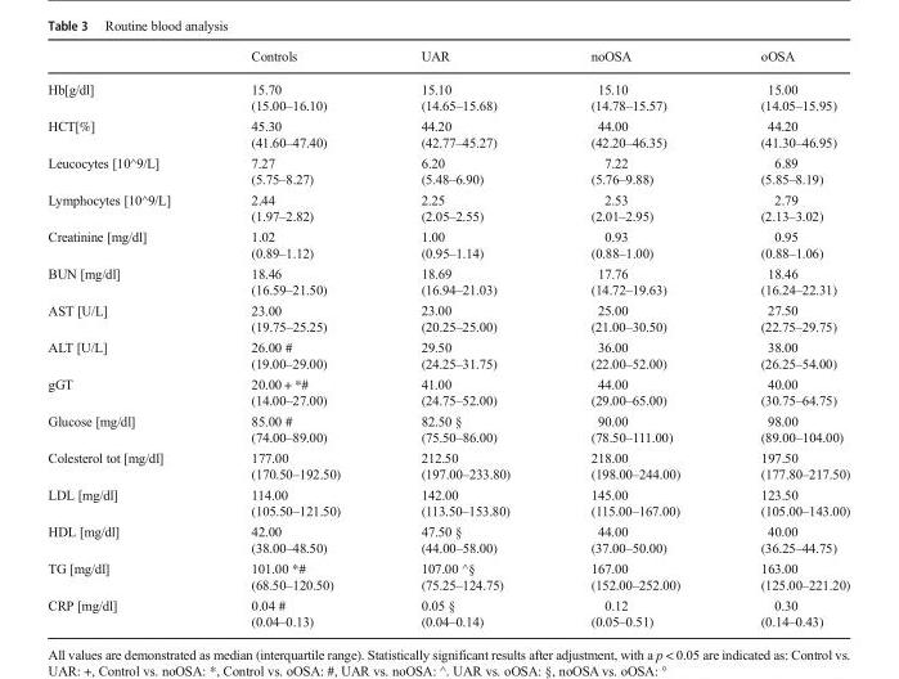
<table><thead><tr><td></td><td>Controls</td><td>UAR</td><td>noOSA</td><td>oOSA</td></tr></thead><tbody><tr><td>Hb[g/dl]</td><td>15.70 (15.00–16.10)</td><td>15.10 (14.65–15.68)</td><td>15.10 (14.78–15.57)</td><td>15.00 (14.05–15.95)</td></tr><tr><td>HCT[%]</td><td>45.30 (41.60–47.40)</td><td>44.20 (42.77–45.27)</td><td>44.00 (42.20–46.35)</td><td>44.20 (41.30–46.95)</td></tr><tr><td>Leucocytes [10^9/L]</td><td>7.27 (5.75–8.27)</td><td>6.20 (5.48–6.90)</td><td>7.22 (5.76–9.88)</td><td>6.89 (5.85–8.19)</td></tr><tr><td>Lymphocytes [10^9/L]</td><td>2.44 (1.97–2.82)</td><td>2.25 (2.05–2.55)</td><td>2.53 (2.01–2.95)</td><td>2.79 (2.13–3.02)</td></tr><tr><td>Creatinine [mg/dl]</td><td>1.02 (0.89–1.12)</td><td>1.00 (0.95–1.14)</td><td>0.93 (0.88–1.00)</td><td>0.95 (0.88–1.06)</td></tr><tr><td>BUN [mg/dl]</td><td>18.46 (16.59–21.50)</td><td>18.69 (16.94–21.03)</td><td>17.76 (14.72–19.63)</td><td>18.46 (16.24–22.31)</td></tr><tr><td>AST [U/L]</td><td>23.00 (19.75–25.25)</td><td>23.00 (20.25–25.00)</td><td>25.00 (21.00–30.50)</td><td>27.50 (22.75–29.75)</td></tr><tr><td>ALT [U/L]</td><td>26.00 # (19.00–29.00)</td><td>29.50 (24.25–31.75)</td><td>36.00 (22.00–52.00)</td><td>38.00 (26.25–54.00)</td></tr><tr><td>gGT</td><td>20.00 + *# (14.00–27.00)</td><td>41.00 (24.75–52.00)</td><td>44.00 (29.00–65.00)</td><td>40.00 (30.75–64.75)</td></tr><tr><td>Glucose [mg/dl]</td><td>85.00 # (74.00–89.00)</td><td>82.50 § (75.50–86.00)</td><td>90.00 (78.50–111.00)</td><td>98.00 (89.00–104.00)</td></tr><tr><td>Colesterol tot [mg/dl]</td><td>177.00 (170.50–192.50)</td><td>212.50 (197.00–233.80)</td><td>218.00 (198.00–244.00)</td><td>197.50 (177.80–217.50)</td></tr><tr><td>LDL [mg/dl]</td><td>114.00 (105.50–121.50)</td><td>142.00 (113.50–153.80)</td><td>145.00 (115.00–167.00)</td><td>123.50 (105.00–143.00)</td></tr><tr><td>HDL [mg/dl]</td><td>42.00 (38.00–48.50)</td><td>47.50 § (44.00–58.00)</td><td>44.00 (37.00–50.00)</td><td>40.00 (36.25–44.75)</td></tr><tr><td>TG [mg/dl]</td><td>101.00 *# (68.50–120.50)</td><td>107.00 ^§ (75.25–124.75)</td><td>167.00 (152.00–252.00)</td><td>163.00 (125.00–221.20)</td></tr><tr><td>CRP [mg/dl]</td><td>0.04 # (0.04–0.13)</td><td>0.05 § (0.04–0.14)</td><td>0.12 (0.05–0.51)</td><td>0.30 (0.14–0.43)</td></tr></tbody></table>